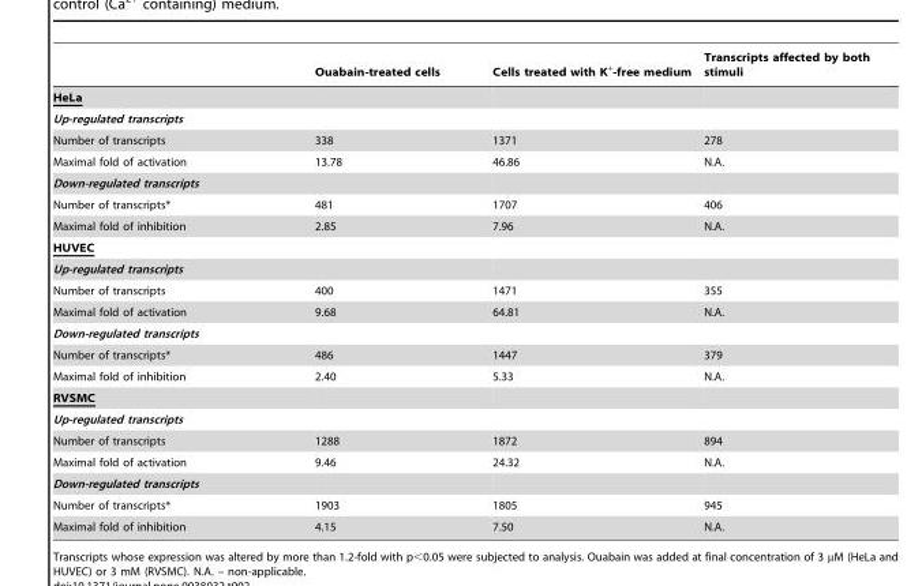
<table><thead><tr><td></td><td>Ouabain-treated cells</td><td>Cells treated with K<sup>+</sup>-free medium</td><td>Transcripts affected by both stimuli</td></tr></thead><tbody><tr><td colspan="4">HeLa</td></tr><tr><td colspan="4">Up-regulated transcripts</td></tr><tr><td>Number of transcripts</td><td>338</td><td>1371</td><td>278</td></tr><tr><td>Maximal fold of activation</td><td>13.78</td><td>46.86</td><td>N.A.</td></tr><tr><td colspan="4">Down-regulated transcripts</td></tr><tr><td>Number of transcripts*</td><td>481</td><td>1707</td><td>406</td></tr><tr><td>Maximal fold of inhibition</td><td>2.85</td><td>7.96</td><td>N.A.</td></tr><tr><td colspan="4">HUVEC</td></tr><tr><td colspan="4">Up-regulated transcripts</td></tr><tr><td>Number of transcripts</td><td>400</td><td>1471</td><td>355</td></tr><tr><td>Maximal fold of activation</td><td>9.68</td><td>64.81</td><td>N.A.</td></tr><tr><td colspan="4">Down-regulated transcripts</td></tr><tr><td>Number of transcripts*</td><td>486</td><td>1447</td><td>379</td></tr><tr><td>Maximal fold of inhibition</td><td>2.40</td><td>5.33</td><td>N.A.</td></tr><tr><td colspan="4">RVSMC</td></tr><tr><td colspan="4">Up-regulated transcripts</td></tr><tr><td>Number of transcripts</td><td>1288</td><td>1872</td><td>894</td></tr><tr><td>Maximal fold of activation</td><td>9.46</td><td>24.32</td><td>N.A.</td></tr><tr><td colspan="4">Down-regulated transcripts</td></tr><tr><td>Number of transcripts*</td><td>1903</td><td>1805</td><td>945</td></tr><tr><td>Maximal fold of inhibition</td><td>4.15</td><td>7.50</td><td>N.A.</td></tr></tbody></table>